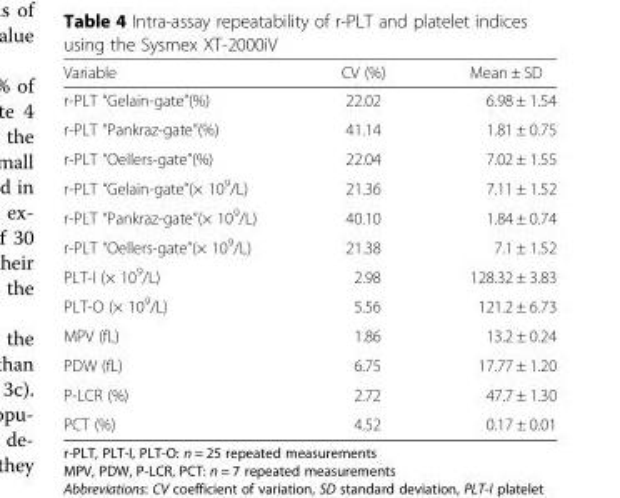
<table><thead><tr><td>Variable</td><td>CV (%)</td><td>Mean ± SD</td></tr></thead><tbody><tr><td>r-PLT “Gelain-gate”(%)</td><td>22.02</td><td>6.98 ± 1.54</td></tr><tr><td>r-PLT “Pankraz-gate”(%)</td><td>41.14</td><td>1.81 ± 0.75</td></tr><tr><td>r-PLT “Oellers-gate”(%)</td><td>22.04</td><td>7.02 ± 1.55</td></tr><tr><td>r-PLT “Gelain-gate”(× 10<sup>9</sup>/L)</td><td>21.36</td><td>7.11 ± 1.52</td></tr><tr><td>r-PLT “Pankraz-gate”(× 10<sup>9</sup>/L)</td><td>40.10</td><td>1.84 ± 0.74</td></tr><tr><td>r-PLT “Oellers-gate”(× 10<sup>9</sup>/L)</td><td>21.38</td><td>7.1 ± 1.52</td></tr><tr><td>PLT-I (× 10<sup>9</sup>/L)</td><td>2.98</td><td>128.32 ± 3.83</td></tr><tr><td>PLT-O (× 10<sup>9</sup>/L)</td><td>5.56</td><td>121.2 ± 6.73</td></tr><tr><td>MPV (fL)</td><td>1.86</td><td>13.2 ± 0.24</td></tr><tr><td>PDW (fL)</td><td>6.75</td><td>17.77 ± 1.20</td></tr><tr><td>P-LCR (%)</td><td>2.72</td><td>47.7 ± 1.30</td></tr><tr><td>PCT (%)</td><td>4.52</td><td>0.17 ± 0.01</td></tr></tbody></table>